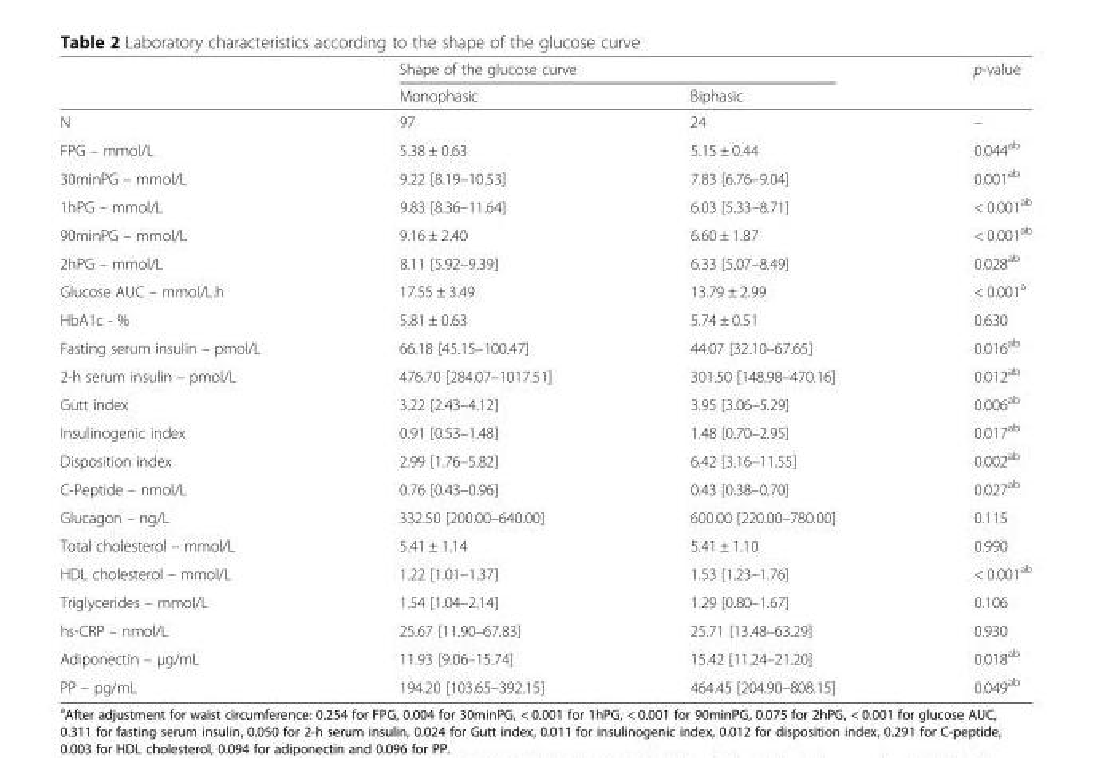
<table><thead><tr><td rowspan="2"></td><td colspan="2">Shape of the glucose curve</td><td rowspan="2">p-value</td></tr><tr><td>Monophasic</td><td>Biphasic</td></tr></thead><tbody><tr><td>N</td><td>97</td><td>24</td><td>–</td></tr><tr><td>FPG – mmol/L</td><td>5.38 ± 0.63</td><td>5.15 ± 0.44</td><td>0.044<sup>ab</sup></td></tr><tr><td>30minPG – mmol/L</td><td>9.22 [8.19–10.53]</td><td>7.83 [6.76–9.04]</td><td>0.001<sup>ab</sup></td></tr><tr><td>1hPG – mmol/L</td><td>9.83 [8.36–11.64]</td><td>6.03 [5.33–8.71]</td><td>&lt; 0.001<sup>ab</sup></td></tr><tr><td>90minPG – mmol/L</td><td>9.16 ± 2.40</td><td>6.60 ± 1.87</td><td>&lt; 0.001<sup>ab</sup></td></tr><tr><td>2hPG – mmol/L</td><td>8.11 [5.92–9.39]</td><td>6.33 [5.07–8.49]</td><td>0.028<sup>ab</sup></td></tr><tr><td>Glucose AUC – mmol/L.h</td><td>17.55 ± 3.49</td><td>13.79 ± 2.99</td><td>&lt; 0.001<sup>a</sup></td></tr><tr><td>HbA1c - %</td><td>5.81 ± 0.63</td><td>5.74 ± 0.51</td><td>0.630</td></tr><tr><td>Fasting serum insulin – pmol/L</td><td>66.18 [45.15–100.47]</td><td>44.07 [32.10–67.65]</td><td>0.016<sup>ab</sup></td></tr><tr><td>2-h serum insulin – pmol/L</td><td>476.70 [284.07–1017.51]</td><td>301.50 [148.98–470.16]</td><td>0.012<sup>ab</sup></td></tr><tr><td>Gutt index</td><td>3.22 [2.43–4.12]</td><td>3.95 [3.06–5.29]</td><td>0.006<sup>ab</sup></td></tr><tr><td>Insulinogenic index</td><td>0.91 [0.53–1.48]</td><td>1.48 [0.70–2.95]</td><td>0.017<sup>ab</sup></td></tr><tr><td>Disposition index</td><td>2.99 [1.76–5.82]</td><td>6.42 [3.16–11.55]</td><td>0.002<sup>ab</sup></td></tr><tr><td>C-Peptide – nmol/L</td><td>0.76 [0.43–0.96]</td><td>0.43 [0.38–0.70]</td><td>0.027<sup>ab</sup></td></tr><tr><td>Glucagon – ng/L</td><td>332.50 [200.00–640.00]</td><td>600.00 [220.00–780.00]</td><td>0.115</td></tr><tr><td>Total cholesterol – mmol/L</td><td>5.41 ± 1.14</td><td>5.41 ± 1.10</td><td>0.990</td></tr><tr><td>HDL cholesterol – mmol/L</td><td>1.22 [1.01–1.37]</td><td>1.53 [1.23–1.76]</td><td>&lt; 0.001<sup>ab</sup></td></tr><tr><td>Triglycerides – mmol/L</td><td>1.54 [1.04–2.14]</td><td>1.29 [0.80–1.67]</td><td>0.106</td></tr><tr><td>hs-CRP – nmol/L</td><td>25.67 [11.90–67.83]</td><td>25.71 [13.48–63.29]</td><td>0.930</td></tr><tr><td>Adiponectin – μg/mL</td><td>11.93 [9.06–15.74]</td><td>15.42 [11.24–21.20]</td><td>0.018<sup>ab</sup></td></tr><tr><td>PP – pg/mL</td><td>194.20 [103.65–392.15]</td><td>464.45 [204.90–808.15]</td><td>0.049<sup>ab</sup></td></tr></tbody></table>